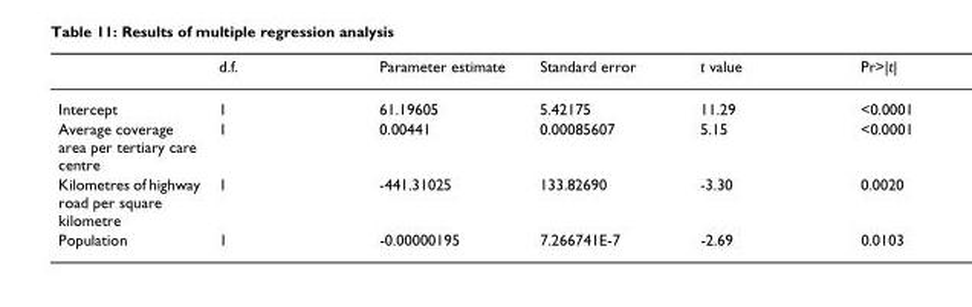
<table><thead><tr><td></td><td>d.f.</td><td>Parameter estimate</td><td>Standard error</td><td>t value</td><td>Pr&gt;|t|</td></tr></thead><tbody><tr><td>Intercept</td><td>1</td><td>61.19605</td><td>5.42175</td><td>11.29</td><td>&lt;0.0001</td></tr><tr><td>Average coverage area per tertiary care centre</td><td>1</td><td>0.00441</td><td>0.00085607</td><td>5.15</td><td>&lt;0.0001</td></tr><tr><td>Kilometres of highway road per square kilometre</td><td>1</td><td>-441.31025</td><td>133.82690</td><td>-3.30</td><td>0.0020</td></tr><tr><td>Population</td><td>1</td><td>-0.00000195</td><td>7.266741E-7</td><td>-2.69</td><td>0.0103</td></tr></tbody></table>